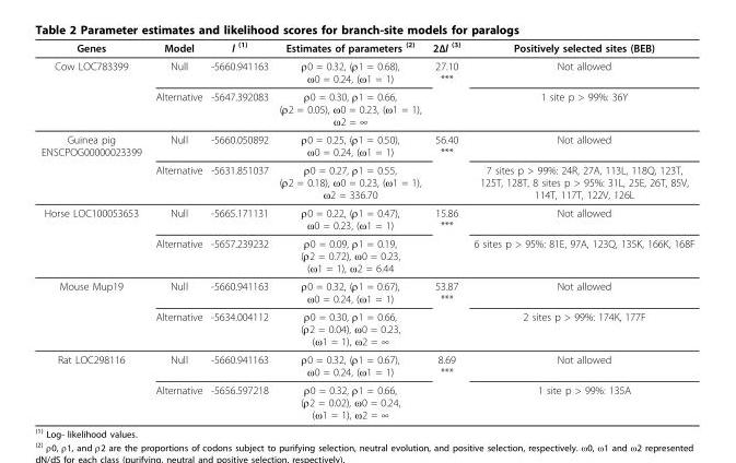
<table><thead><tr><td>Genes</td><td>Model</td><td>l <sup>(1)</sup></td><td>Estimates of parameters <sup>(2)</sup></td><td>2Δl <sup>(3)</sup></td><td>Positively selected sites (BEB)</td></tr></thead><tbody><tr><td rowspan="2">Cow LOC783399</td><td>Null</td><td>-5660.941163</td><td>ρ0 = 0.32, (ρ1 = 0.68), ω0 = 0.24, (ω1 = 1)</td><td>27.10 ***</td><td>Not allowed</td></tr><tr><td>Alternative</td><td>-5647.392083</td><td>ρ0 = 0.30, ρ1 = 0.66, (ρ2 = 0.05), ω0 = 0.23, (ω1 = 1), ω2 = ∞</td><td></td><td>1 site p &gt; 99%: 36Y</td></tr><tr><td rowspan="2">Guinea pig ENSCPOG00000023399</td><td>Null</td><td>-5660.050892</td><td>ρ0 = 0.25, (ρ1 = 0.50), ω0 = 0.24, (ω1 = 1)</td><td>56.40 ***</td><td>Not allowed</td></tr><tr><td>Alternative</td><td>-5631.851037</td><td>ρ0 = 0.27, ρ1 = 0.55, (ρ2 = 0.18), ω0 = 0.23, (ω1 = 1), ω2 = 336.70</td><td></td><td>7 sites p &gt; 99%: 24R, 27A, 113L, 118Q, 123T, 125T, 128T, 8 sites p &gt; 95%: 31L, 25E, 26T, 85V, 114T, 117T, 122V, 126L</td></tr><tr><td rowspan="2">Horse LOC100053653</td><td>Null</td><td>-5665.171131</td><td>ρ0 = 0.22, (ρ1 = 0.47), ω0 = 0.23, (ω1 = 1)</td><td>15.86 ***</td><td>Not allowed</td></tr><tr><td>Alternative</td><td>-5657.239232</td><td>ρ0 = 0.09, ρ1 = 0.19, (ρ2 = 0.72), ω0 = 0.23, (ω1 = 1), ω2 = 6.44</td><td></td><td>6 sites p &gt; 95%: 81E, 97A, 123Q, 135K, 166K, 168F</td></tr><tr><td rowspan="2">Mouse Mup19</td><td>Null</td><td>-5660.941163</td><td>ρ0 = 0.32, (ρ1 = 0.67), ω0 = 0.24, (ω1 = 1)</td><td>53.87 ***</td><td>Not allowed</td></tr><tr><td>Alternative</td><td>-5634.004112</td><td>ρ0 = 0.30, ρ1 = 0.66, (ρ2 = 0.04), ω0 = 0.23, (ω1 = 1), ω2 = ∞</td><td></td><td>2 sites p &gt; 99%: 174K, 177F</td></tr><tr><td rowspan="2">Rat LOC298116</td><td>Null</td><td>-5660.941163</td><td>ρ0 = 0.32, (ρ1 = 0.67), ω0 = 0.24, (ω1 = 1)</td><td>8.69 ***</td><td>Not allowed</td></tr><tr><td>Alternative</td><td>-5656.597218</td><td>ρ0 = 0.32, ρ1 = 0.66, (ρ2 = 0.02), ω0 = 0.24, (ω1 = 1), ω2 = ∞</td><td></td><td>1 site p &gt; 99%: 135A</td></tr></tbody></table>